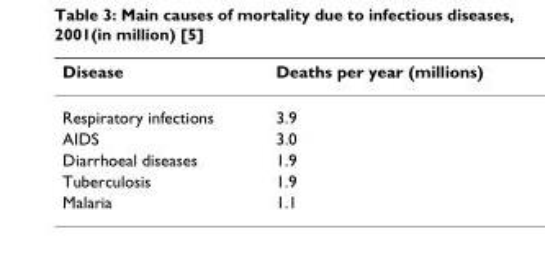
<table><thead><tr><td>Disease</td><td>Deaths per year (millions)</td></tr></thead><tbody><tr><td>Respiratory infections</td><td>3.9</td></tr><tr><td>AIDS</td><td>3.0</td></tr><tr><td>Diarrhoeal diseases</td><td>1.9</td></tr><tr><td>Tuberculosis</td><td>1.9</td></tr><tr><td>Malaria</td><td>1.1</td></tr></tbody></table>